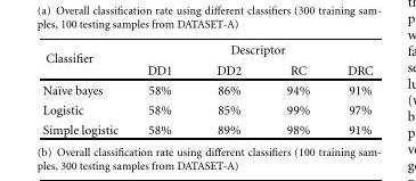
<table><tbody><tr><td rowspan="2">Classifier</td><td colspan="4">Descriptor</td></tr><tr><td>DD1</td><td>DD2</td><td>RC</td><td>DRC</td></tr><tr><td>Na¨ıve bayes</td><td>58%</td><td>86%</td><td>94%</td><td>91%</td></tr><tr><td>Logistic</td><td>58%</td><td>85%</td><td>99%</td><td>97%</td></tr><tr><td>Simple logistic</td><td>58%</td><td>89%</td><td>98%</td><td>91%</td></tr></tbody></table>